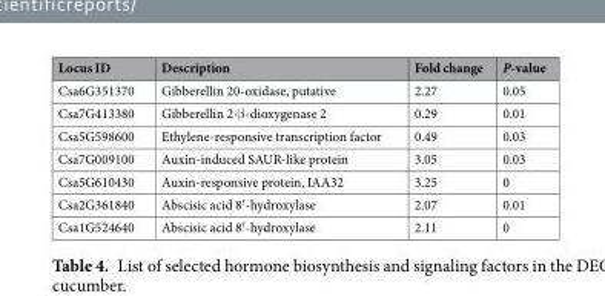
<table><thead><tr><td>Locus ID</td><td>Description</td><td>Fold change</td><td>P-value</td></tr></thead><tbody><tr><td>Csa6G351370</td><td>Gibberellin 20-oxidase, putative</td><td>2.27</td><td>0.05</td></tr><tr><td>Csa7G413380</td><td>Gibberellin 2-β-dioxygenase 2</td><td>0.29</td><td>0.01</td></tr><tr><td>Csa5G598600</td><td>Ethylene-responsive transcription factor</td><td>0.49</td><td>0.03</td></tr><tr><td>Csa7G009100</td><td>Auxin-induced SAUR-like protein</td><td>3.05</td><td>0.03</td></tr><tr><td>Csa5G610430</td><td>Auxin-responsive protein, IAA32</td><td>3.25</td><td>0</td></tr><tr><td>Csa2G361840</td><td>Abscisic acid 8′-hydroxylase</td><td>2.07</td><td>0.01</td></tr><tr><td>Csa1G524640</td><td>Abscisic acid 8′-hydroxylase</td><td>2.11</td><td>0</td></tr></tbody></table>